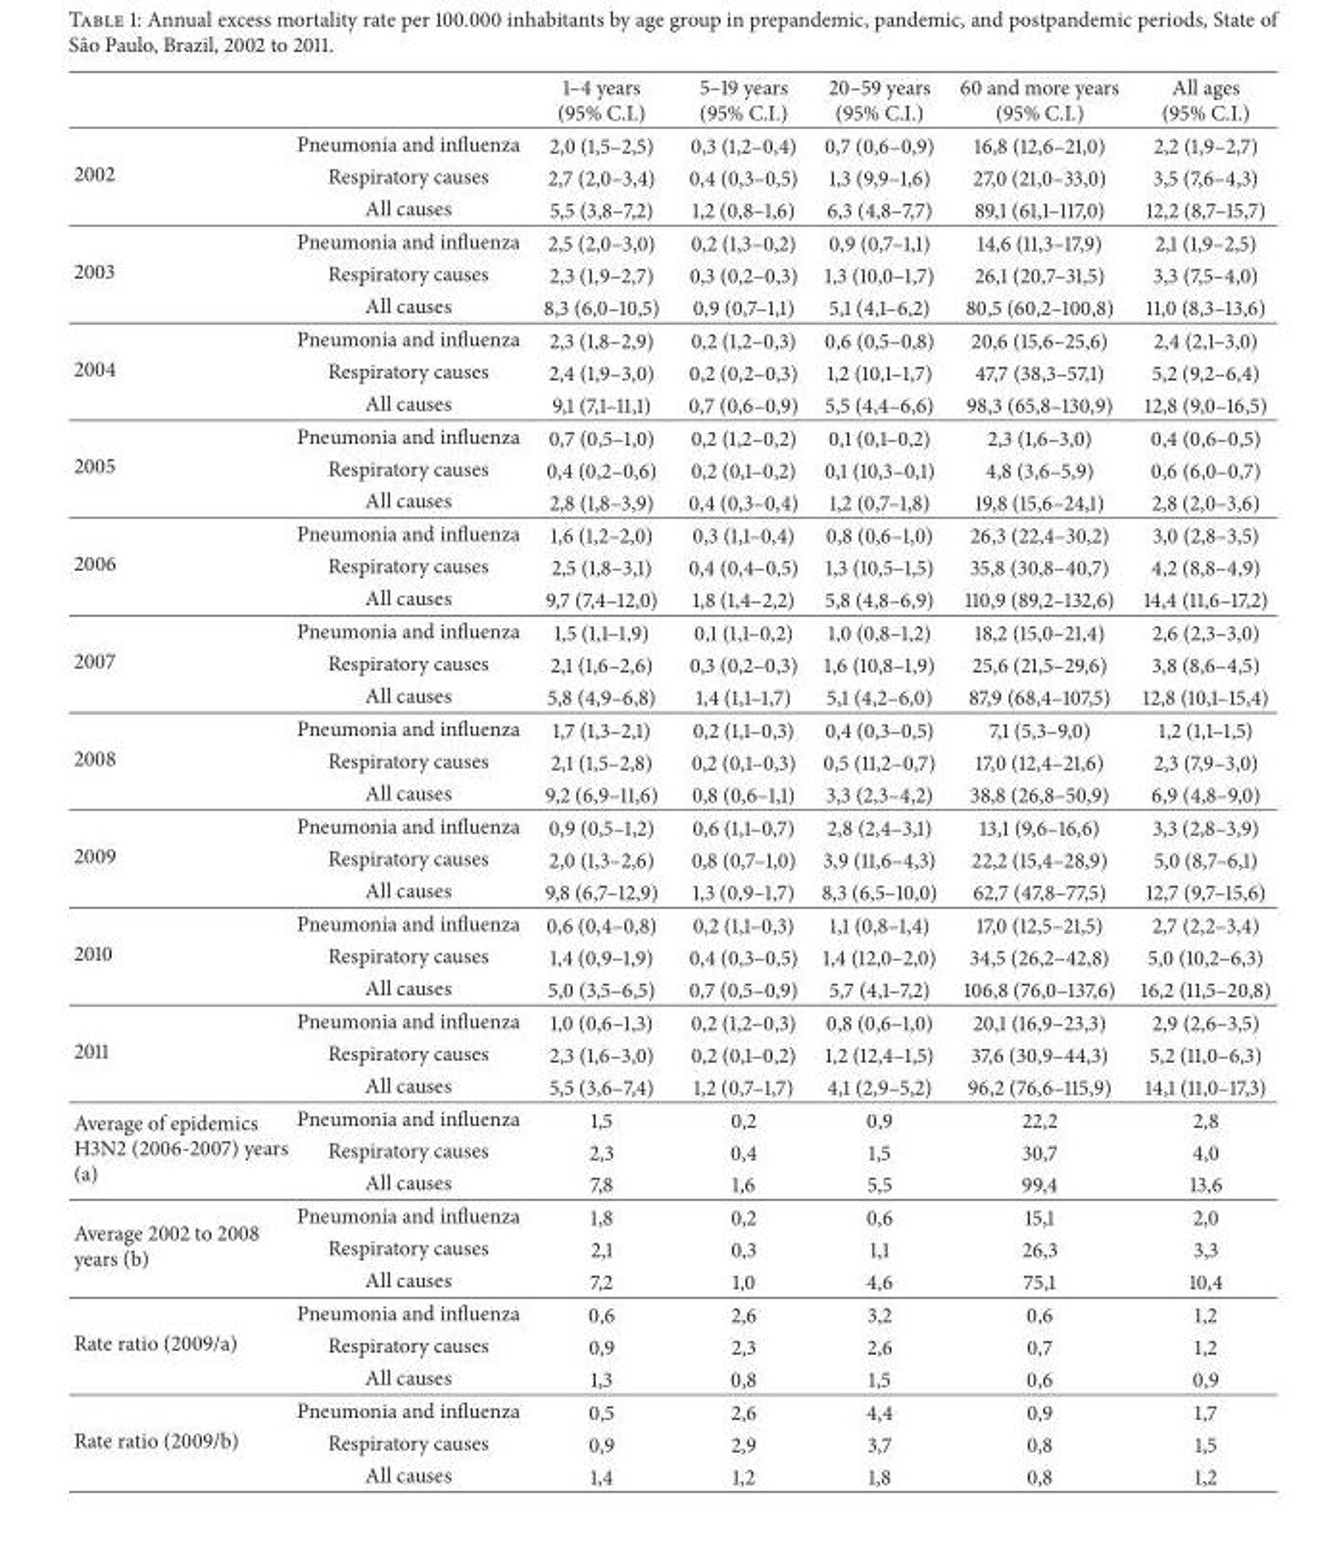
<table><thead><tr><td></td><td></td><td>1–4 years (95% C.I.)</td><td>5–19 years (95% C.I.)</td><td>20–59 years (95% C.I.)</td><td>60 and more years (95% C.I.)</td><td>All ages (95% C.I.)</td></tr></thead><tbody><tr><td rowspan="3">2002</td><td>Pneumonia and influenza</td><td>2,0 (1,5–2,5)</td><td>0,3 (1,2–0,4)</td><td>0,7 (0,6–0,9)</td><td>16,8 (12,6–21,0)</td><td>2,2 (1,9–2,7)</td></tr><tr><td>Respiratory causes</td><td>2,7 (2,0–3,4)</td><td>0,4 (0,3–0,5)</td><td>1,3 (9,9–1,6)</td><td>27,0 (21,0–33,0)</td><td>3,5 (7,6–4,3)</td></tr><tr><td>All causes</td><td>5,5 (3,8–7,2)</td><td>1,2 (0,8–1,6)</td><td>6,3 (4,8–7,7)</td><td>89,1 (61,1–117,0)</td><td>12,2 (8,7–15,7)</td></tr><tr><td rowspan="3">2003</td><td>Pneumonia and influenza</td><td>2,5 (2,0–3,0)</td><td>0,2 (1,3–0,2)</td><td>0,9 (0,7–1,1)</td><td>14,6 (11,3–17,9)</td><td>2,1 (1,9–2,5)</td></tr><tr><td>Respiratory causes</td><td>2,3 (1,9–2,7)</td><td>0,3 (0,2–0,3)</td><td>1,3 (10,0–1,7)</td><td>26,1 (20,7–31,5)</td><td>3,3 (7,5–4,0)</td></tr><tr><td>All causes</td><td>8,3 (6,0–10,5)</td><td>0,9 (0,7–1,1)</td><td>5,1 (4,1–6,2)</td><td>80,5 (60,2–100,8)</td><td>11,0 (8,3–13,6)</td></tr><tr><td rowspan="3">2004</td><td>Pneumonia and influenza</td><td>2,3 (1,8–2,9)</td><td>0,2 (1,2–0,3)</td><td>0,6 (0,5–0,8)</td><td>20,6 (15,6–25,6)</td><td>2,4 (2,1–3,0)</td></tr><tr><td>Respiratory causes</td><td>2,4 (1,9–3,0)</td><td>0,2 (0,2–0,3)</td><td>1,2 (10,1–1,7)</td><td>47,7 (38,3–57,1)</td><td>5,2 (9,2–6,4)</td></tr><tr><td>All causes</td><td>9,1 (7,1–11,1)</td><td>0,7 (0,6–0,9)</td><td>5,5 (4,4–6,6)</td><td>98,3 (65,8–130,9)</td><td>12,8 (9,0–16,5)</td></tr><tr><td rowspan="3">2005</td><td>Pneumonia and influenza</td><td>0,7 (0,5–1,0)</td><td>0,2 (1,2–0,2)</td><td>0,1 (0,1–0,2)</td><td>2,3 (1,6–3,0)</td><td>0,4 (0,6–0,5)</td></tr><tr><td>Respiratory causes</td><td>0,4 (0,2–0,6)</td><td>0,2 (0,1–0,2)</td><td>0,1 (10,3–0,1)</td><td>4,8 (3,6–5,9)</td><td>0,6 (6,0–0,7)</td></tr><tr><td>All causes</td><td>2,8 (1,8–3,9)</td><td>0,4 (0,3–0,4)</td><td>1,2 (0,7–1,8)</td><td>19,8 (15,6–24,1)</td><td>2,8 (2,0–3,6)</td></tr><tr><td rowspan="3">2006</td><td>Pneumonia and influenza</td><td>1,6 (1,2–2,0)</td><td>0,3 (1,1–0,4)</td><td>0,8 (0,6–1,0)</td><td>26,3 (22,4–30,2)</td><td>3,0 (2,8–3,5)</td></tr><tr><td>Respiratory causes</td><td>2,5 (1,8–3,1)</td><td>0,4 (0,4–0,5)</td><td>1,3 (10,5–1,5)</td><td>35,8 (30,8–40,7)</td><td>4,2 (8,8–4,9)</td></tr><tr><td>All causes</td><td>9,7 (7,4–12,0)</td><td>1,8 (1,4–2,2)</td><td>5,8 (4,8–6,9)</td><td>110,9 (89,2–132,6)</td><td>14,4 (11,6–17,2)</td></tr><tr><td rowspan="3">2007</td><td>Pneumonia and influenza</td><td>1,5 (1,1–1,9)</td><td>0,1 (1,1–0,2)</td><td>1,0 (0,8–1,2)</td><td>18,2 (15,0–21,4)</td><td>2,6 (2,3–3,0)</td></tr><tr><td>Respiratory causes</td><td>2,1 (1,6–2,6)</td><td>0,3 (0,2–0,3)</td><td>1,6 (10,8–1,9)</td><td>25,6 (21,5–29,6)</td><td>3,8 (8,6–4,5)</td></tr><tr><td>All causes</td><td>5,8 (4,9–6,8)</td><td>1,4 (1,1–1,7)</td><td>5,1 (4,2–6,0)</td><td>87,9 (68,4–107,5)</td><td>12,8 (10,1–15,4)</td></tr><tr><td rowspan="3">2008</td><td>Pneumonia and influenza</td><td>1,7 (1,3–2,1)</td><td>0,2 (1,1–0,3)</td><td>0,4 (0,3–0,5)</td><td>7,1 (5,3–9,0)</td><td>1,2 (1,1–1,5)</td></tr><tr><td>Respiratory causes</td><td>2,1 (1,5–2,8)</td><td>0,2 (0,1–0,3)</td><td>0,5 (11,2–0,7)</td><td>17,0 (12,4–21,6)</td><td>2,3 (7,9–3,0)</td></tr><tr><td>All causes</td><td>9,2 (6,9–11,6)</td><td>0,8 (0,6–1,1)</td><td>3,3 (2,3–4,2)</td><td>38,8 (26,8–50,9)</td><td>6,9 (4,8–9,0)</td></tr><tr><td rowspan="3">2009</td><td>Pneumonia and influenza</td><td>0,9 (0,5–1,2)</td><td>0,6 (1,1–0,7)</td><td>2,8 (2,4–3,1)</td><td>13,1 (9,6–16,6)</td><td>3,3 (2,8–3,9)</td></tr><tr><td>Respiratory causes</td><td>2,0 (1,3–2,6)</td><td>0,8 (0,7–1,0)</td><td>3,9 (11,6–4,3)</td><td>22,2 (15,4–28,9)</td><td>5,0 (8,7–6,1)</td></tr><tr><td>All causes</td><td>9,8 (6,7–12,9)</td><td>1,3 (0,9–1,7)</td><td>8,3 (6,5–10,0)</td><td>62,7 (47,8–77,5)</td><td>12,7 (9,7–15,6)</td></tr><tr><td rowspan="3">2010</td><td>Pneumonia and influenza</td><td>0,6 (0,4–0,8)</td><td>0,2 (1,1–0,3)</td><td>1,1 (0,8–1,4)</td><td>17,0 (12,5–21,5)</td><td>2,7 (2,2–3,4)</td></tr><tr><td>Respiratory causes</td><td>1,4 (0,9–1,9)</td><td>0,4 (0,3–0,5)</td><td>1,4 (12,0–2,0)</td><td>34,5 (26,2–42,8)</td><td>5,0 (10,2–6,3)</td></tr><tr><td>All causes</td><td>5,0 (3,5–6,5)</td><td>0,7 (0,5–0,9)</td><td>5,7 (4,1–7,2)</td><td>106,8 (76,0–137,6)</td><td>16,2 (11,5–20,8)</td></tr><tr><td rowspan="3">2011</td><td>Pneumonia and influenza</td><td>1,0 (0,6–1,3)</td><td>0,2 (1,2–0,3)</td><td>0,8 (0,6–1,0)</td><td>20,1 (16,9–23,3)</td><td>2,9 (2,6–3,5)</td></tr><tr><td>Respiratory causes</td><td>2,3 (1,6–3,0)</td><td>0,2 (0,1–0,2)</td><td>1,2 (12,4–1,5)</td><td>37,6 (30,9–44,3)</td><td>5,2 (11,0–6,3)</td></tr><tr><td>All causes</td><td>5,5 (3,6–7,4)</td><td>1,2 (0,7–1,7)</td><td>4,1 (2,9–5,2)</td><td>96,2 (76,6–115,9)</td><td>14,1 (11,0–17,3)</td></tr><tr><td rowspan="3">Average of epidemics H3N2 (2006-2007) years (a)</td><td>Pneumonia and influenza</td><td>1,5</td><td>0,2</td><td>0,9</td><td>22,2</td><td>2,8</td></tr><tr><td>Respiratory causes</td><td>2,3</td><td>0,4</td><td>1,5</td><td>30,7</td><td>4,0</td></tr><tr><td>All causes</td><td>7,8</td><td>1,6</td><td>5,5</td><td>99,4</td><td>13,6</td></tr><tr><td rowspan="3">Average 2002 to 2008 years (b)</td><td>Pneumonia and influenza</td><td>1,8</td><td>0,2</td><td>0,6</td><td>15,1</td><td>2,0</td></tr><tr><td>Respiratory causes</td><td>2,1</td><td>0,3</td><td>1,1</td><td>26,3</td><td>3,3</td></tr><tr><td>All causes</td><td>7,2</td><td>1,0</td><td>4,6</td><td>75,1</td><td>10,4</td></tr><tr><td rowspan="3">Rate ratio (2009/a)</td><td>Pneumonia and influenza</td><td>0,6</td><td>2,6</td><td>3,2</td><td>0,6</td><td>1,2</td></tr><tr><td>Respiratory causes</td><td>0,9</td><td>2,3</td><td>2,6</td><td>0,7</td><td>1,2</td></tr><tr><td>All causes</td><td>1,3</td><td>0,8</td><td>1,5</td><td>0,6</td><td>0,9</td></tr><tr><td rowspan="3">Rate ratio (2009/b)</td><td>Pneumonia and influenza</td><td>0,5</td><td>2,6</td><td>4,4</td><td>0,9</td><td>1,7</td></tr><tr><td>Respiratory causes</td><td>0,9</td><td>2,9</td><td>3,7</td><td>0,8</td><td>1,5</td></tr><tr><td>All causes</td><td>1,4</td><td>1,2</td><td>1,8</td><td>0,8</td><td>1,2</td></tr></tbody></table>